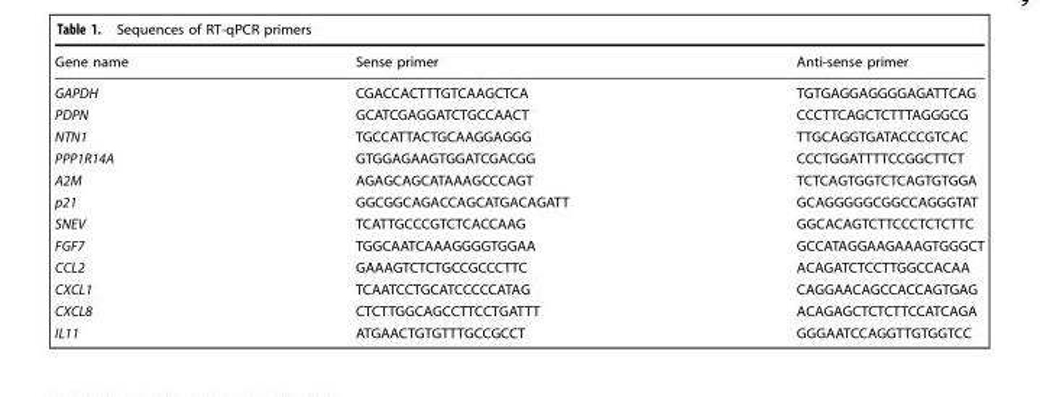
<table><thead><tr><td>Gene name</td><td>Sense primer</td><td>Anti-sense primer</td></tr></thead><tbody><tr><td>GAPDH</td><td>CGACCACTTTGTCAAGCTCA</td><td>TGTGAGGAGGGGAGATTCAG</td></tr><tr><td>PDPN</td><td>GCATCGAGGATCTGCCAACT</td><td>CCCTTCAGCTCTTTAGGGCG</td></tr><tr><td>NTN1</td><td>TGCCATTACTGCAAGGAGGG</td><td>TTGCAGGTGATACCCGTCAC</td></tr><tr><td>PPP1R14A</td><td>GTGGAGAAGTGGATCGACGG</td><td>CCCTGGATTTTCCGGCTTCT</td></tr><tr><td>A2M</td><td>AGAGCAGCATAAAGCCCAGT</td><td>TCTCAGTGGTCTCAGTGTGGA</td></tr><tr><td>p21</td><td>GGCGGCAGACCAGCATGACAGATT</td><td>GCAGGGGGCGGCCAGGGTAT</td></tr><tr><td>SNEV</td><td>TCATTGCCCGTCTCACCAAG</td><td>GGCACAGTCTTCCCTCTCTTC</td></tr><tr><td>FGF7</td><td>TGGCAATCAAAGGGGTGGAA</td><td>GCCATAGGAAGAAAGTGGGCT</td></tr><tr><td>CCL2</td><td>GAAAGTCTCTGCCGCCCTTC</td><td>ACAGATCTCCTTGGCCACAA</td></tr><tr><td>CXCL1</td><td>TCAATCCTGCATCCCCCATAG</td><td>CAGGAACAGCCACCAGTGAG</td></tr><tr><td>CXCL8</td><td>CTCTTGGCAGCCTTCCTGATTT</td><td>ACAGAGCTCTCTTCCATCAGA</td></tr><tr><td>IL11</td><td>ATGAACTGTGTTTGCCGCCT</td><td>GGGAATCCAGGTTGTGGTCC</td></tr></tbody></table>